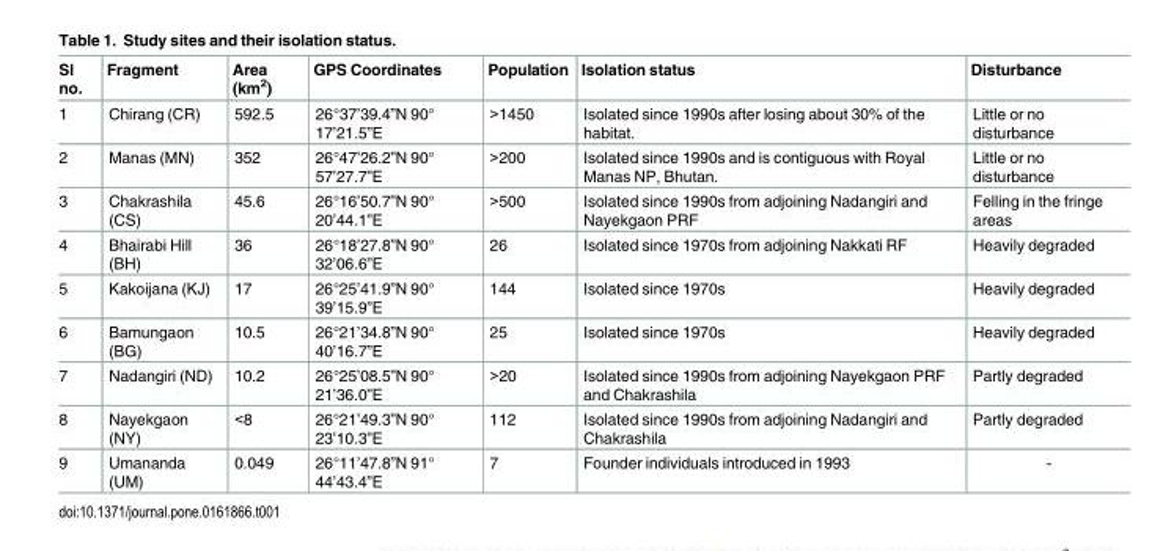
<table><thead><tr><td>Sl no.</td><td>Fragment</td><td>Area (km<sup>2</sup>)</td><td>GPS Coordinates</td><td>Population</td><td>Isolation status</td><td>Disturbance</td></tr></thead><tbody><tr><td>1</td><td>Chirang (CR)</td><td>592.5</td><td>26°37’39.4”N 90° 17’21.5”E</td><td>&gt;1450</td><td>Isolated since 1990s after losing about 30% of the habitat.</td><td>Little or no disturbance</td></tr><tr><td>2</td><td>Manas (MN)</td><td>352</td><td>26°47’26.2”N 90° 57’27.7”E</td><td>&gt;200</td><td>Isolated since 1990s and is contiguous with Royal Manas NP, Bhutan.</td><td>Little or no disturbance</td></tr><tr><td>3</td><td>Chakrashila (CS)</td><td>45.6</td><td>26°16’50.7”N 90° 20’44.1”E</td><td>&gt;500</td><td>Isolated since 1990s from adjoining Nadangiri and Nayekgaon PRF</td><td>Felling in the fringe areas</td></tr><tr><td>4</td><td>Bhairabi Hill (BH)</td><td>36</td><td>26°18’27.8”N 90° 32’06.6”E</td><td>26</td><td>Isolated since 1970s from adjoining Nakkati RF</td><td>Heavily degraded</td></tr><tr><td>5</td><td>Kakoijana (KJ)</td><td>17</td><td>26°25’41.9”N 90° 39’15.9”E</td><td>144</td><td>Isolated since 1970s</td><td>Heavily degraded</td></tr><tr><td>6</td><td>Bamungaon (BG)</td><td>10.5</td><td>26°21’34.8”N 90° 40’16.7”E</td><td>25</td><td>Isolated since 1970s</td><td>Heavily degraded</td></tr><tr><td>7</td><td>Nadangiri (ND)</td><td>10.2</td><td>26°25’08.5”N 90° 21’36.0”E</td><td>&gt;20</td><td>Isolated since 1990s from adjoining Nayekgaon PRF and Chakrashila</td><td>Partly degraded</td></tr><tr><td>8</td><td>Nayekgaon (NY)</td><td>&lt;8</td><td>26°21’49.3”N 90° 23’10.3”E</td><td>112</td><td>Isolated since 1990s from adjoining Nadangiri and Chakrashila</td><td>Partly degraded</td></tr><tr><td>9</td><td>Umananda (UM)</td><td>0.049</td><td>26°11’47.8”N 91° 44’43.4”E</td><td>7</td><td>Founder individuals introduced in 1993</td><td>-</td></tr></tbody></table>